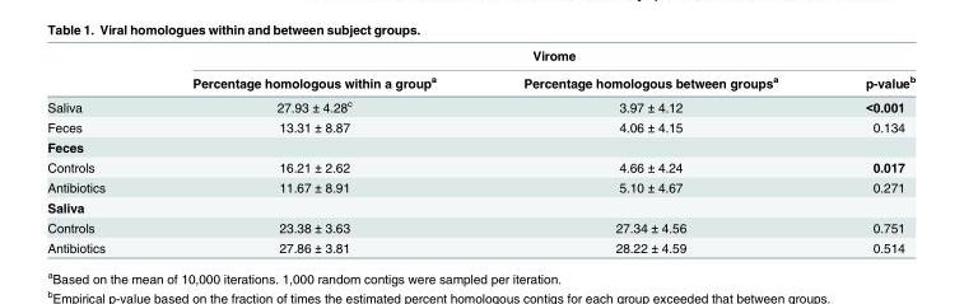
<table><thead><tr><td rowspan="2"></td><td colspan="3">Virome</td></tr><tr><td>Percentage homologous within a group<sup>a</sup></td><td>Percentage homologous between groups<sup>a</sup></td><td>p-value<sup>b</sup></td></tr></thead><tbody><tr><td>Saliva</td><td>27.93 ± 4.28<sup>c</sup></td><td>3.97 ± 4.12</td><td>&lt;0.001</td></tr><tr><td>Feces</td><td>13.31 ± 8.87</td><td>4.06 ± 4.15</td><td>0.134</td></tr><tr><td colspan="4">Feces</td></tr><tr><td>Controls</td><td>16.21 ± 2.62</td><td>4.66 ± 4.24</td><td>0.017</td></tr><tr><td>Antibiotics</td><td>11.67 ± 8.91</td><td>5.10 ± 4.67</td><td>0.271</td></tr><tr><td colspan="4">Saliva</td></tr><tr><td>Controls</td><td>23.38 ± 3.63</td><td>27.34 ± 4.56</td><td>0.751</td></tr><tr><td>Antibiotics</td><td>27.86 ± 3.81</td><td>28.22 ± 4.59</td><td>0.514</td></tr></tbody></table>